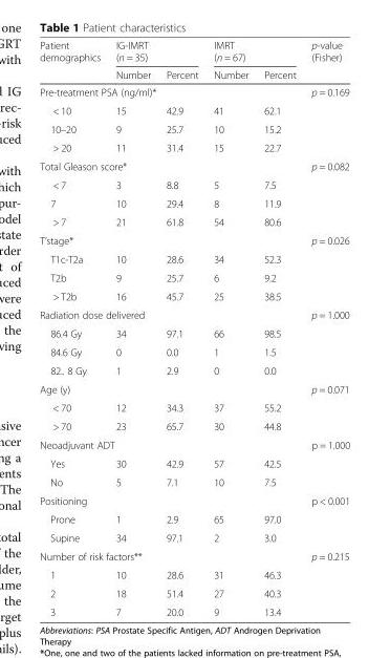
<table><thead><tr><td rowspan="2">Patient demographics</td><td colspan="2">IG-IMRT (n = 35)</td><td colspan="2">IMRT (n = 67)</td><td rowspan="2">p-value (Fisher)</td></tr><tr><td>Number</td><td>Percent</td><td>Number</td><td>Percent</td></tr></thead><tbody><tr><td colspan="5">Pre-treatment PSA (ng/ml)*</td><td rowspan="4">p = 0.169</td></tr><tr><td>&lt; 10</td><td>15</td><td>42.9</td><td>41</td><td>62.1</td></tr><tr><td>10–20</td><td>9</td><td>25.7</td><td>10</td><td>15.2</td></tr><tr><td>&gt; 20</td><td>11</td><td>31.4</td><td>15</td><td>22.7</td></tr><tr><td colspan="5">Total Gleason score*</td><td rowspan="4">p = 0.082</td></tr><tr><td>&lt; 7</td><td>3</td><td>8.8</td><td>5</td><td>7.5</td></tr><tr><td>7</td><td>10</td><td>29.4</td><td>8</td><td>11.9</td></tr><tr><td>&gt; 7</td><td>21</td><td>61.8</td><td>54</td><td>80.6</td></tr><tr><td colspan="5">T’stage*</td><td rowspan="4">p = 0.026</td></tr><tr><td>T1c-T2a</td><td>10</td><td>28.6</td><td>34</td><td>52.3</td></tr><tr><td>T2b</td><td>9</td><td>25.7</td><td>6</td><td>9.2</td></tr><tr><td>&gt; T2b</td><td>16</td><td>45.7</td><td>25</td><td>38.5</td></tr><tr><td colspan="5">Radiation dose delivered</td><td rowspan="4">p = 1.000</td></tr><tr><td>86.4 Gy</td><td>34</td><td>97.1</td><td>66</td><td>98.5</td></tr><tr><td>84.6 Gy</td><td>0</td><td>0.0</td><td>1</td><td>1.5</td></tr><tr><td>82.. 8 Gy</td><td>1</td><td>2.9</td><td>0</td><td>0.0</td></tr><tr><td colspan="5">Age (y)</td><td rowspan="3">p = 0.071</td></tr><tr><td>&lt; 70</td><td>12</td><td>34.3</td><td>37</td><td>55.2</td></tr><tr><td>&gt; 70</td><td>23</td><td>65.7</td><td>30</td><td>44.8</td></tr><tr><td colspan="5">Neoadjuvant ADT</td><td rowspan="3">p = 1.000</td></tr><tr><td>Yes</td><td>30</td><td>42.9</td><td>57</td><td>42.5</td></tr><tr><td>No</td><td>5</td><td>7.1</td><td>10</td><td>7.5</td></tr><tr><td colspan="5">Positioning</td><td rowspan="3">p &lt; 0.001</td></tr><tr><td>Prone</td><td>1</td><td>2.9</td><td>65</td><td>97.0</td></tr><tr><td>Supine</td><td>34</td><td>97.1</td><td>2</td><td>3.0</td></tr><tr><td colspan="5">Number of risk factors**</td><td rowspan="4">p = 0.215</td></tr><tr><td>1</td><td>10</td><td>28.6</td><td>31</td><td>46.3</td></tr><tr><td>2</td><td>18</td><td>51.4</td><td>27</td><td>40.3</td></tr><tr><td>3</td><td>7</td><td>20.0</td><td>9</td><td>13.4</td></tr></tbody></table>